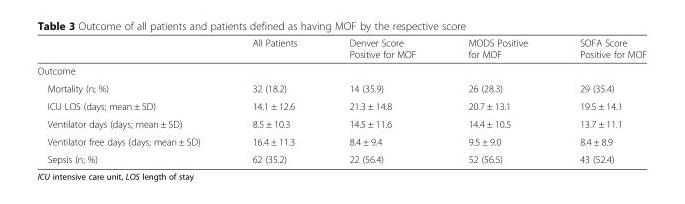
<table><thead><tr><td></td><td>All Patients</td><td>Denver Score Positive for MOF</td><td>MODS Positive for MOF</td><td>SOFA Score Positive for MOF</td></tr></thead><tbody><tr><td colspan="5">Outcome</td></tr><tr><td>Mortality (n; %)</td><td>32 (18.2)</td><td>14 (35.9)</td><td>26 (28.3)</td><td>29 (35.4)</td></tr><tr><td>ICU LOS (days; mean ± SD)</td><td>14.1 ± 12.6</td><td>21.3 ± 14.8</td><td>20.7 ± 13.1</td><td>19.5 ± 14.1</td></tr><tr><td>Ventilator days (days; mean ± SD)</td><td>8.5 ± 10.3</td><td>14.5 ± 11.6</td><td>14.4 ± 10.5</td><td>13.7 ± 11.1</td></tr><tr><td>Ventilator free days (days; mean ± SD)</td><td>16.4 ± 11.3</td><td>8.4 ± 9.4</td><td>9.5 ± 9.0</td><td>8.4 ± 8.9</td></tr><tr><td>Sepsis (n; %)</td><td>62 (35.2)</td><td>22 (56.4)</td><td>52 (56.5)</td><td>43 (52.4)</td></tr></tbody></table>